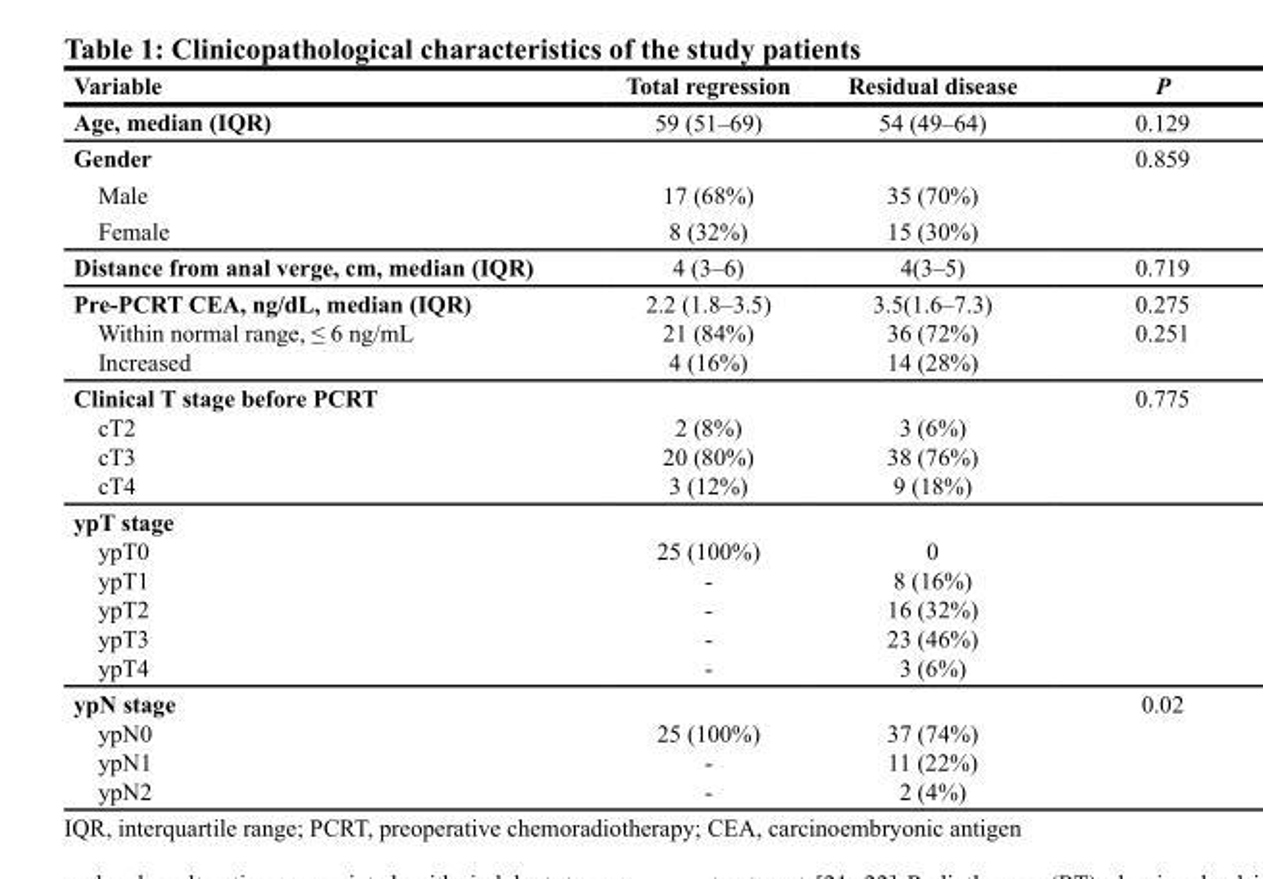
<table><thead><tr><td>Variable</td><td>Total regression</td><td>Residual disease</td><td>P</td></tr></thead><tbody><tr><td>Age, median (IQR)</td><td>59 (51–69)</td><td>54 (49–64)</td><td>0.129</td></tr><tr><td>Gender</td><td></td><td></td><td>0.859</td></tr><tr><td>Male</td><td>17 (68%)</td><td>35 (70%)</td><td></td></tr><tr><td>Female</td><td>8 (32%)</td><td>15 (30%)</td><td></td></tr><tr><td>Distance from anal verge, cm, median (IQR)</td><td>4 (3–6)</td><td>4(3–5)</td><td>0.719</td></tr><tr><td>Pre-PCRT CEA, ng/dL, median (IQR) Within normal range, ≤ 6 ng/mL Increased</td><td>2.2 (1.8–3.5) 21 (84%) 4 (16%)</td><td>3.5(1.6–7.3) 36 (72%) 14 (28%)</td><td>0.275 0.251</td></tr><tr><td>Clinical T stage before PCRT cT2 cT3 cT4</td><td>2 (8%) 20 (80%) 3 (12%)</td><td>3 (6%) 38 (76%) 9 (18%)</td><td>0.775</td></tr><tr><td>ypT stage ypT0 ypT1 ypT2 ypT3 ypT4</td><td>25 (100%) - - - -</td><td>0 8 (16%) 16 (32%) 23 (46%) 3 (6%)</td><td></td></tr><tr><td>ypN stage ypN0 ypN1 ypN2</td><td>25 (100%) - -</td><td>37 (74%) 11 (22%) 2 (4%)</td><td>0.02</td></tr></tbody></table>